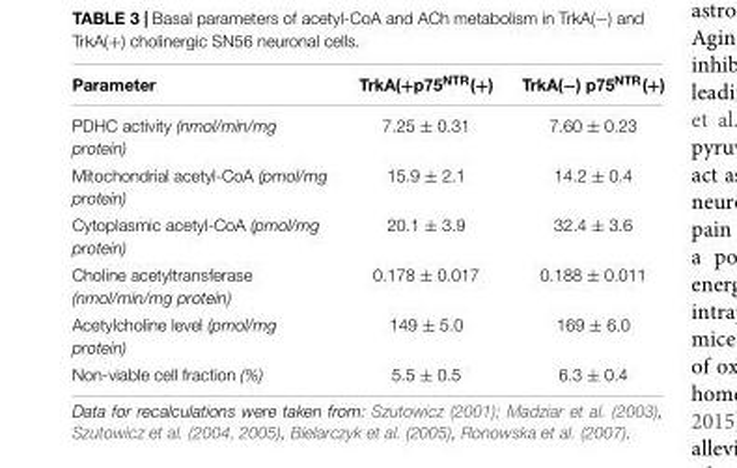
<table><thead><tr><td>Parameter</td><td>TrkA(+p75<sup>NTR</sup>(+)</td><td>TrkA(−) p75<sup>NTR</sup>(+)</td></tr></thead><tbody><tr><td>PDHC activity (nmol/min/mg protein)</td><td>7.25 ± 0.31</td><td>7.60 ± 0.23</td></tr><tr><td>Mitochondrial acetyl-CoA (pmol/mg protein)</td><td>15.9 ± 2.1</td><td>14.2 ± 0.4</td></tr><tr><td>Cytoplasmic acetyl-CoA (pmol/mg protein)</td><td>20.1 ± 3.9</td><td>32.4 ± 3.6</td></tr><tr><td>Choline acetyltransferase (nmol/min/mg protein)</td><td>0.178 ± 0.017</td><td>0.188 ± 0.011</td></tr><tr><td>Acetylcholine level (pmol/mg protein)</td><td>149 ± 5.0</td><td>169 ± 6.0</td></tr><tr><td>Non-viable cell fraction (%)</td><td>5.5 ± 0.5</td><td>6.3 ± 0.4</td></tr></tbody></table>